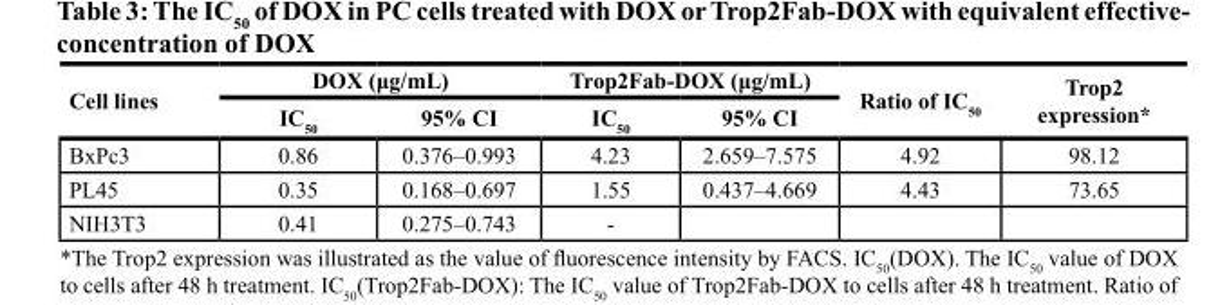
<table><thead><tr><td rowspan="2">cell lines</td><td colspan="2">DOX (μg/mL)</td><td colspan="2">Trop2Fab-DOX (μg/mL)</td><td rowspan="2">ratio of Ic<sub>50</sub></td><td rowspan="2">trop2 expression*</td></tr><tr><td>Ic<sub>50</sub></td><td>95% cI</td><td>Ic<sub>50</sub></td><td>95% cI</td></tr></thead><tbody><tr><td>BxPc3</td><td>0.86</td><td>0.376–0.993</td><td>4.23</td><td>2.659–7.575</td><td>4.92</td><td>98.12</td></tr><tr><td>PL45</td><td>0.35</td><td>0.168–0.697</td><td>1.55</td><td>0.437–4.669</td><td>4.43</td><td>73.65</td></tr><tr><td>NIH3T3</td><td>0.41</td><td>0.275–0.743</td><td>-</td><td></td><td></td><td></td></tr></tbody></table>